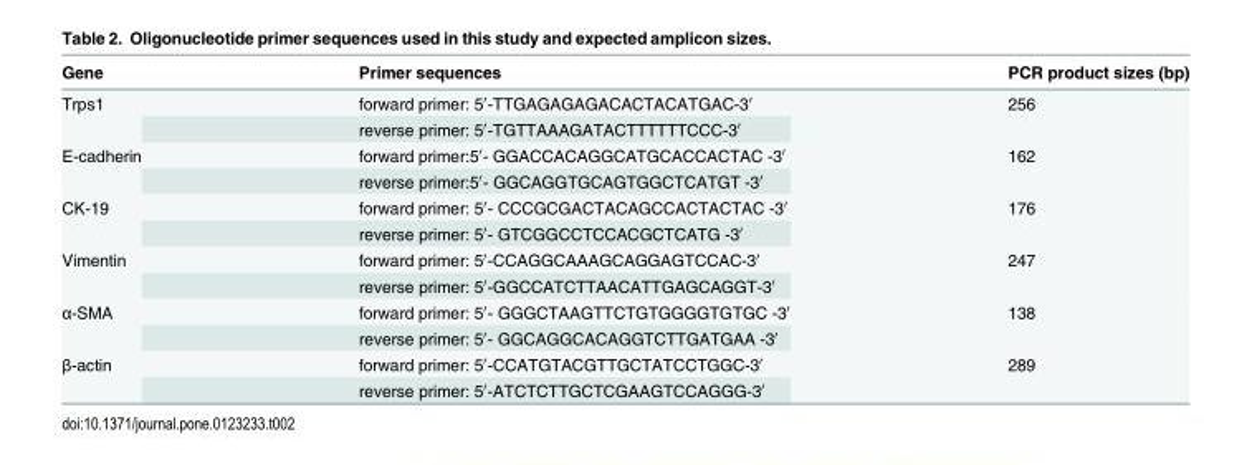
<table><thead><tr><td>Gene</td><td>Primer sequences</td><td>PCR product sizes (bp)</td></tr></thead><tbody><tr><td rowspan="2">Trps1</td><td>forward primer: 5′-TTGAGAGAGACACTACATGAC-3′</td><td rowspan="2">256</td></tr><tr><td>reverse primer: 5′-TGTTAAAGATACTTTTTTCCC-3′</td></tr><tr><td rowspan="2">E-cadherin</td><td>forward primer:5′- GGACCACAGGCATGCACCACTAC -3′</td><td rowspan="2">162</td></tr><tr><td>reverse primer:5′- GGCAGGTGCAGTGGCTCATGT -3′</td></tr><tr><td rowspan="2">CK-19</td><td>forward primer: 5′- CCCGCGACTACAGCCACTACTAC -3′</td><td rowspan="2">176</td></tr><tr><td>reverse primer: 5′- GTCGGCCTCCACGCTCATG -3′</td></tr><tr><td rowspan="2">Vimentin</td><td>forward primer: 5′-CCAGGCAAAGCAGGAGTCCAC-3′</td><td rowspan="2">247</td></tr><tr><td>reverse primer: 5′-GGCCATCTTAACATTGAGCAGGT-3′</td></tr><tr><td rowspan="2">α-SMA</td><td>forward primer: 5′- GGGCTAAGTTCTGTGGGGTGTGC -3′</td><td rowspan="2">138</td></tr><tr><td>reverse primer: 5′- GGCAGGCACAGGTCTTGATGAA -3′</td></tr><tr><td rowspan="2">β-actin</td><td>forward primer: 5′-CCATGTACGTTGCTATCCTGGC-3′</td><td rowspan="2">289</td></tr><tr><td>reverse primer: 5′-ATCTCTTGCTCGAAGTCCAGGG-3′</td></tr></tbody></table>